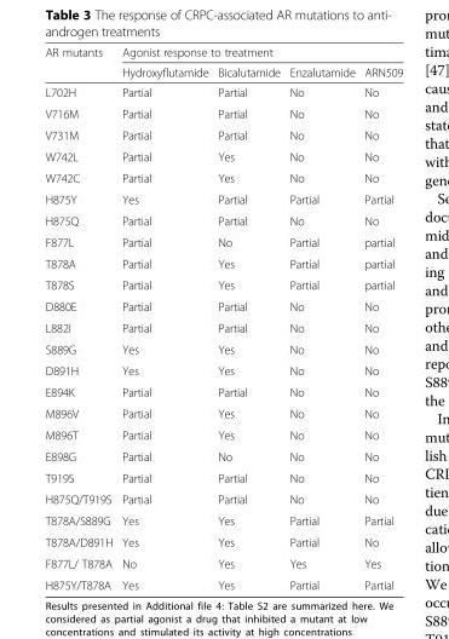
<table><thead><tr><td rowspan="2">AR mutants</td><td colspan="4">Agonist response to treatment</td></tr><tr><td>Hydroxyflutamide</td><td>Bicalutamide</td><td>Enzalutamide</td><td>ARN509</td></tr></thead><tbody><tr><td>L702H</td><td>Partial</td><td>Partial</td><td>No</td><td>No</td></tr><tr><td>V716M</td><td>Partial</td><td>Partial</td><td>No</td><td>No</td></tr><tr><td>V731M</td><td>Partial</td><td>Partial</td><td>No</td><td>No</td></tr><tr><td>W742L</td><td>Partial</td><td>Yes</td><td>No</td><td>No</td></tr><tr><td>W742C</td><td>Partial</td><td>Yes</td><td>No</td><td>No</td></tr><tr><td>H875Y</td><td>Yes</td><td>Partial</td><td>Partial</td><td>Partial</td></tr><tr><td>H875Q</td><td>Partial</td><td>Partial</td><td>No</td><td>No</td></tr><tr><td>F877L</td><td>Partial</td><td>No</td><td>Partial</td><td>partial</td></tr><tr><td>T878A</td><td>Partial</td><td>Yes</td><td>Partial</td><td>partial</td></tr><tr><td>T878S</td><td>Partial</td><td>Yes</td><td>Partial</td><td>partial</td></tr><tr><td>D880E</td><td>Partial</td><td>Partial</td><td>No</td><td>No</td></tr><tr><td>L882I</td><td>Partial</td><td>Partial</td><td>No</td><td>No</td></tr><tr><td>S889G</td><td>Yes</td><td>Yes</td><td>No</td><td>No</td></tr><tr><td>D891H</td><td>Yes</td><td>Yes</td><td>No</td><td>No</td></tr><tr><td>E894K</td><td>Partial</td><td>Partial</td><td>No</td><td>No</td></tr><tr><td>M896V</td><td>Partial</td><td>Yes</td><td>No</td><td>No</td></tr><tr><td>M896T</td><td>Partial</td><td>Yes</td><td>No</td><td>No</td></tr><tr><td>E898G</td><td>Partial</td><td>No</td><td>No</td><td>No</td></tr><tr><td>T919S</td><td>Partial</td><td>Partial</td><td>No</td><td>No</td></tr><tr><td>H875Q/T919S</td><td>Partial</td><td>Partial</td><td>No</td><td>No</td></tr><tr><td>T878A/S889G</td><td>Yes</td><td>Yes</td><td>Partial</td><td>Partial</td></tr><tr><td>T878A/D891H</td><td>Yes</td><td>Yes</td><td>Partial</td><td>No</td></tr><tr><td>F877L/ T878A</td><td>No</td><td>Yes</td><td>Yes</td><td>Yes</td></tr><tr><td>H875Y/T878A</td><td>Yes</td><td>Yes</td><td>Partial</td><td>Partial</td></tr></tbody></table>